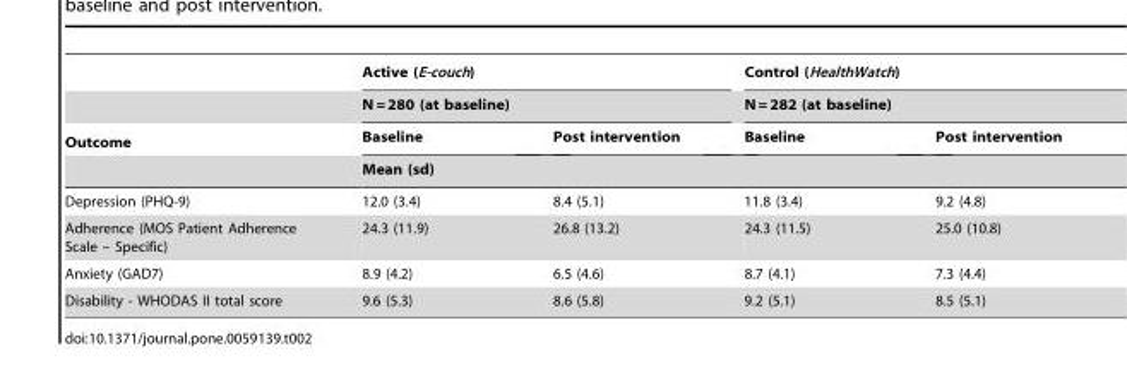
<table><thead><tr><td rowspan="4">Outcome</td><td rowspan="2" colspan="2">Active (E-couch) N = 280 (at baseline)</td><td rowspan="2" colspan="2">Control (HealthWatch) N = 282 (at baseline)</td></tr><tr></tr><tr><td>Baseline</td><td>Post intervention</td><td>Baseline</td><td>Post intervention</td></tr><tr><td colspan="4">Mean (sd)</td></tr></thead><tbody><tr><td>Depression (PHQ-9)</td><td>12.0 (3.4)</td><td>8.4 (5.1)</td><td>11.8 (3.4)</td><td>9.2 (4.8)</td></tr><tr><td>Adherence (MOS Patient Adherence Scale – Specific)</td><td>24.3 (11.9)</td><td>26.8 (13.2)</td><td>24.3 (11.5)</td><td>25.0 (10.8)</td></tr><tr><td>Anxiety (GAD7)</td><td>8.9 (4.2)</td><td>6.5 (4.6)</td><td>8.7 (4.1)</td><td>7.3 (4.4)</td></tr><tr><td>Disability - WHODAS II total score</td><td>9.6 (5.3)</td><td>8.6 (5.8)</td><td>9.2 (5.1)</td><td>8.5 (5.1)</td></tr></tbody></table>